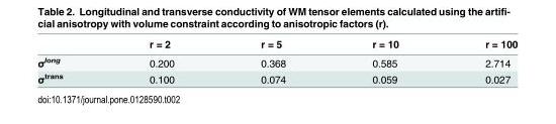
<table><thead><tr><td></td><td>r = 2</td><td>r = 5</td><td>r = 10</td><td>r = 100</td></tr></thead><tbody><tr><td>σ<sup>long</sup></td><td>0.200</td><td>0.368</td><td>0.585</td><td>2.714</td></tr><tr><td>σ<sup>trans</sup></td><td>0.100</td><td>0.074</td><td>0.059</td><td>0.027</td></tr></tbody></table>